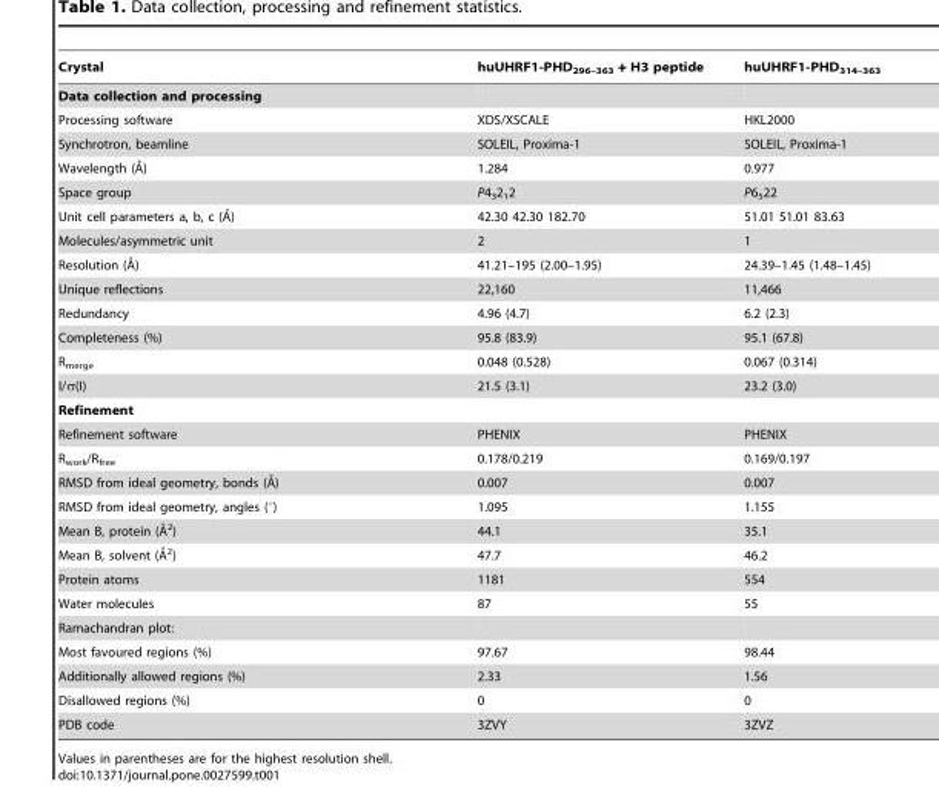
<table><thead><tr><td>Crystal</td><td>huUHRF1-PHD<sub>296–363</sub> + H3 peptide</td><td>huUHRF1-PHD<sub>314–363</sub></td></tr></thead><tbody><tr><td colspan="3">Data collection and processing</td></tr><tr><td>Processing software</td><td>XDS/XSCALE</td><td>HKL2000</td></tr><tr><td>Synchrotron, beamline</td><td>SOLEIL, Proxima-1</td><td>SOLEIL, Proxima-1</td></tr><tr><td>Wavelength (A˚)</td><td>1.284</td><td>0.977</td></tr><tr><td>Space group</td><td>P4<sub>3</sub>2<sub>1</sub>2</td><td>P6<sub>5</sub>22</td></tr><tr><td>Unit cell parameters a, b, c (A˚)</td><td>42.30 42.30 182.70</td><td>51.01 51.01 83.63</td></tr><tr><td>Molecules/asymmetric unit</td><td>2</td><td>1</td></tr><tr><td>Resolution (A˚)</td><td>41.21–195 (2.00–1.95)</td><td>24.39–1.45 (1.48–1.45)</td></tr><tr><td>Unique reflections</td><td>22,160</td><td>11,466</td></tr><tr><td>Redundancy</td><td>4.96 (4.7)</td><td>6.2 (2.3)</td></tr><tr><td>Completeness (%)</td><td>95.8 (83.9)</td><td>95.1 (67.8)</td></tr><tr><td>R<sub>merge</sub></td><td>0.048 (0.528)</td><td>0.067 (0.314)</td></tr><tr><td>I/σ(I)</td><td>21.5 (3.1)</td><td>23.2 (3.0)</td></tr><tr><td colspan="3">Refinement</td></tr><tr><td>Refinement software</td><td>PHENIX</td><td>PHENIX</td></tr><tr><td>R<sub>work</sub>/R<sub>free</sub></td><td>0.178/0.219</td><td>0.169/0.197</td></tr><tr><td>RMSD from ideal geometry, bonds (A˚)</td><td>0.007</td><td>0.007</td></tr><tr><td>RMSD from ideal geometry, angles (°)</td><td>1.095</td><td>1.155</td></tr><tr><td>Mean B, protein (A˚2)</td><td>44.1</td><td>35.1</td></tr><tr><td>Mean B, solvent (A˚ 2)</td><td>47.7</td><td>46.2</td></tr><tr><td>Protein atoms</td><td>1181</td><td>554</td></tr><tr><td>Water molecules</td><td>87</td><td>55</td></tr><tr><td colspan="3">Ramachandran plot:</td></tr><tr><td>Most favoured regions (%)</td><td>97.67</td><td>98.44</td></tr><tr><td>Additionally allowed regions (%)</td><td>2.33</td><td>1.56</td></tr><tr><td>Disallowed regions (%)</td><td>0</td><td>0</td></tr><tr><td>PDB code</td><td>3ZVY</td><td>3ZVZ</td></tr></tbody></table>